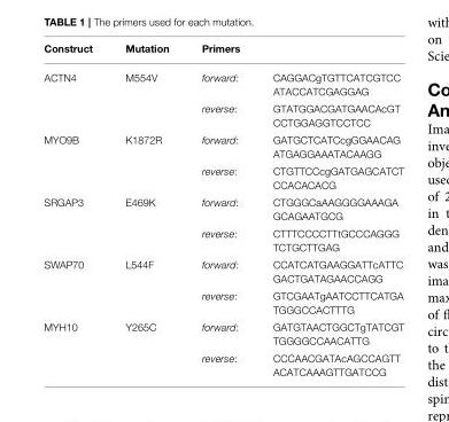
<table><thead><tr><td>Construct</td><td>Mutation</td><td>Primers</td><td></td></tr></thead><tbody><tr><td rowspan="2">ACTN4</td><td>M554V</td><td>forward:</td><td>CAGGACgTGTTCATCGTCC ATACCATCGAGGAG</td></tr><tr><td></td><td>reverse:</td><td>GTATGGACGATGAACAcGT CCTGGAGGTCCTCC</td></tr><tr><td rowspan="2">MYO9B</td><td>K1872R</td><td>forward:</td><td>GATGCTCATCcgGGAACAG ATGAGGAAATACAAGG</td></tr><tr><td></td><td>reverse:</td><td>CTGTTCCcgGATGAGCATCT CCACACACG</td></tr><tr><td rowspan="2">SRGAP3</td><td>E469K</td><td>forward:</td><td>CTGGGCaAAGGGGAAAGA GCAGAATGCG</td></tr><tr><td></td><td>reverse:</td><td>CTTTCCCCTTtGCCCAGGG TCTGCTTGAG</td></tr><tr><td rowspan="2">SWAP70</td><td>L544F</td><td>forward:</td><td>CCATCATGAAGGATTcATTC GACTGATAGAACCAGG</td></tr><tr><td></td><td>reverse:</td><td>GTCGAATgAATCCTTCATGA TGGGCCACTTTG</td></tr><tr><td rowspan="2">MYH10</td><td>Y265C</td><td>forward:</td><td>GATGTAACTGGCTgTATCGT TGGGGCCAACATTG</td></tr><tr><td></td><td>reverse:</td><td>CCCAACGATAcAGCCAGTT ACATCAAAGTTGATCCG</td></tr></tbody></table>